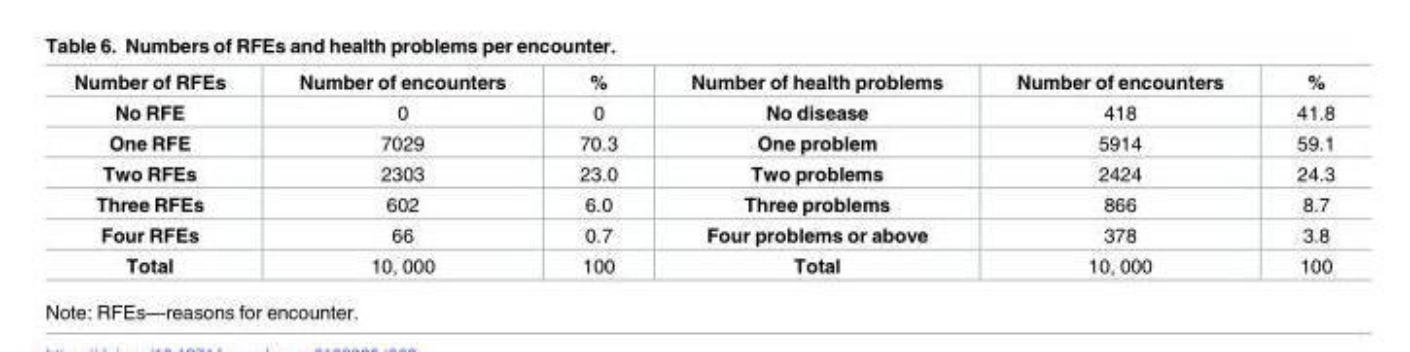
<table><thead><tr><td>Number of RFEs</td><td>Number of encounters</td><td>%</td><td>Number of health problems</td><td>Number of encounters</td><td>%</td></tr></thead><tbody><tr><td>No RFE</td><td>0</td><td>0</td><td>No disease</td><td>418</td><td>41.8</td></tr><tr><td>One RFE</td><td>7029</td><td>70.3</td><td>One problem</td><td>5914</td><td>59.1</td></tr><tr><td>Two RFEs</td><td>2303</td><td>23.0</td><td>Two problems</td><td>2424</td><td>24.3</td></tr><tr><td>Three RFEs</td><td>602</td><td>6.0</td><td>Three problems</td><td>866</td><td>8.7</td></tr><tr><td>Four RFEs</td><td>66</td><td>0.7</td><td>Four problems or above</td><td>378</td><td>3.8</td></tr><tr><td>Total</td><td>10, 000</td><td>100</td><td>Total</td><td>10, 000</td><td>100</td></tr></tbody></table>